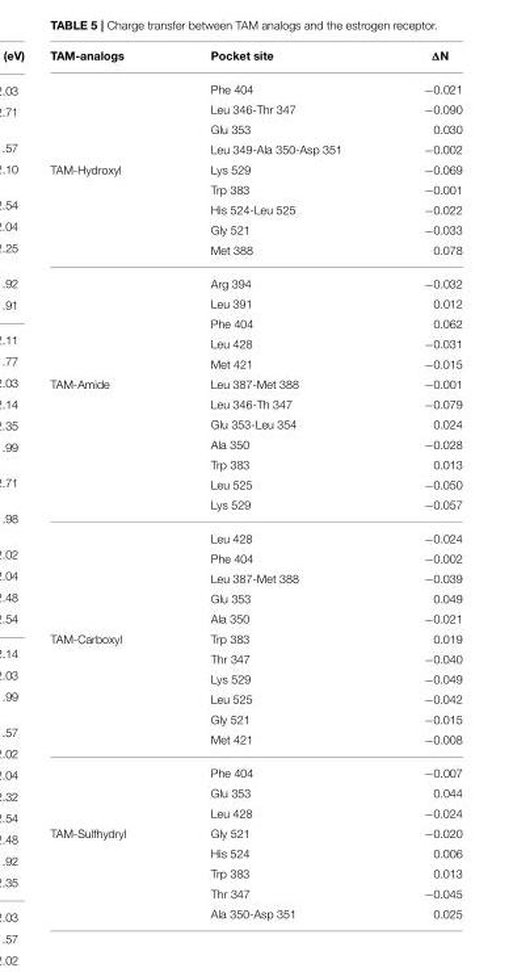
<table><thead><tr><td>TAM-analogs</td><td>Pocket site</td><td>ΔN</td></tr></thead><tbody><tr><td></td><td>Phe 404</td><td>−0.021</td></tr><tr><td></td><td>Leu 346-Thr 347</td><td>−0.090</td></tr><tr><td></td><td>Glu 353</td><td>0.030</td></tr><tr><td></td><td>Leu 349-Ala 350-Asp 351</td><td>−0.002</td></tr><tr><td rowspan="10">TAM-Hydroxyl</td><td>Lys 529</td><td>−0.069</td></tr><tr><td>Trp 383</td><td>−0.001</td></tr><tr><td>His 524-Leu 525</td><td>−0.022</td></tr><tr><td>Gly 521</td><td>−0.033</td></tr><tr><td>Met 388</td><td>0.078</td></tr><tr><td>Arg 394</td><td>−0.032</td></tr><tr><td>Leu 391</td><td>0.012</td></tr><tr><td>Phe 404</td><td>0.062</td></tr><tr><td>Leu 428</td><td>−0.031</td></tr><tr><td>Met 421</td><td>−0.015</td></tr><tr><td rowspan="12">TAM-Amide</td><td>Leu 387-Met 388</td><td>−0.001</td></tr><tr><td>Leu 346-Th 347</td><td>−0.079</td></tr><tr><td>Glu 353-Leu 354</td><td>0.024</td></tr><tr><td>Ala 350</td><td>−0.028</td></tr><tr><td>Trp 383</td><td>0.013</td></tr><tr><td>Leu 525</td><td>−0.050</td></tr><tr><td>Lys 529</td><td>−0.057</td></tr><tr><td>Leu 428</td><td>−0.024</td></tr><tr><td>Phe 404</td><td>−0.002</td></tr><tr><td>Leu 387-Met 388</td><td>−0.039</td></tr><tr><td>Glu 353</td><td>0.049</td></tr><tr><td>Ala 350</td><td>−0.021</td></tr><tr><td rowspan="9">TAM-Carboxyl</td><td>Trp 383</td><td>0.019</td></tr><tr><td>Thr 347</td><td>−0.040</td></tr><tr><td>Lys 529</td><td>−0.049</td></tr><tr><td>Leu 525</td><td>−0.042</td></tr><tr><td>Gly 521</td><td>−0.015</td></tr><tr><td>Met 421</td><td>−0.008</td></tr><tr><td>Phe 404</td><td>−0.007</td></tr><tr><td>Glu 353</td><td>0.044</td></tr><tr><td>Leu 428</td><td>−0.024</td></tr><tr><td rowspan="5">TAM-Sulfhydryl</td><td>Gly 521</td><td>−0.020</td></tr><tr><td>His 524</td><td>0.006</td></tr><tr><td>Trp 383</td><td>0.013</td></tr><tr><td>Thr 347</td><td>−0.045</td></tr><tr><td>Ala 350-Asp 351</td><td>0.025</td></tr></tbody></table>